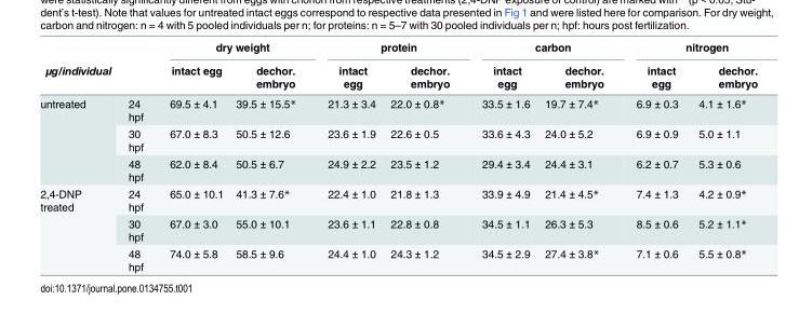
<table><thead><tr><td rowspan="2">μg/individual</td><td rowspan="2"></td><td colspan="2">dry weight</td><td colspan="2">protein</td><td colspan="2">carbon</td><td colspan="2">nitrogen</td></tr><tr><td>intact egg</td><td>dechor. embryo</td><td>intact egg</td><td>dechor. embryo</td><td>intact egg</td><td>dechor. embryo</td><td>intact egg</td><td>dechor. embryo</td></tr></thead><tbody><tr><td rowspan="3">untreated</td><td>24 hpf</td><td>69.5 ± 4.1</td><td>39.5 ± 15.5*</td><td>21.3 ± 3.4</td><td>22.0 ± 0.8*</td><td>33.5 ± 1.6</td><td>19.7 ± 7.4*</td><td>6.9 ± 0.3</td><td>4.1 ± 1.6*</td></tr><tr><td>30 hpf</td><td>67.0 ± 8.3</td><td>50.5 ± 12.6</td><td>23.6 ± 1.9</td><td>22.6 ± 0.5</td><td>33.6 ± 4.3</td><td>24.0 ± 5.2</td><td>6.9 ± 0.9</td><td>5.0 ± 1.1</td></tr><tr><td>48 hpf</td><td>62.0 ± 8.4</td><td>50.5 ± 6.7</td><td>24.9 ± 2.2</td><td>23.5 ± 1.2</td><td>29.4 ± 3.4</td><td>24.4 ± 3.1</td><td>6.2 ± 0.7</td><td>5.3 ± 0.6</td></tr><tr><td rowspan="3">2,4-DNP treated</td><td>24 hpf</td><td>65.0 ± 10.1</td><td>41.3 ± 7.6*</td><td>22.4 ± 1.0</td><td>21.8 ± 1.3</td><td>33.9 ± 4.9</td><td>21.4 ± 4.5*</td><td>7.4 ± 1.3</td><td>4.2 ± 0.9*</td></tr><tr><td>30 hpf</td><td>67.0 ± 3.0</td><td>55.0 ± 10.1</td><td>23.6 ± 1.1</td><td>22.8 ± 0.8</td><td>34.5 ± 1.1</td><td>26.3 ± 5.3</td><td>8.5 ± 0.6</td><td>5.2 ± 1.1*</td></tr><tr><td>48 hpf</td><td>74.0 ± 5.8</td><td>58.5 ± 9.6</td><td>24.4 ± 1.0</td><td>24.3 ± 1.2</td><td>34.5 ± 2.9</td><td>27.4 ± 3.8*</td><td>7.1 ± 0.6</td><td>5.5 ± 0.8*</td></tr></tbody></table>